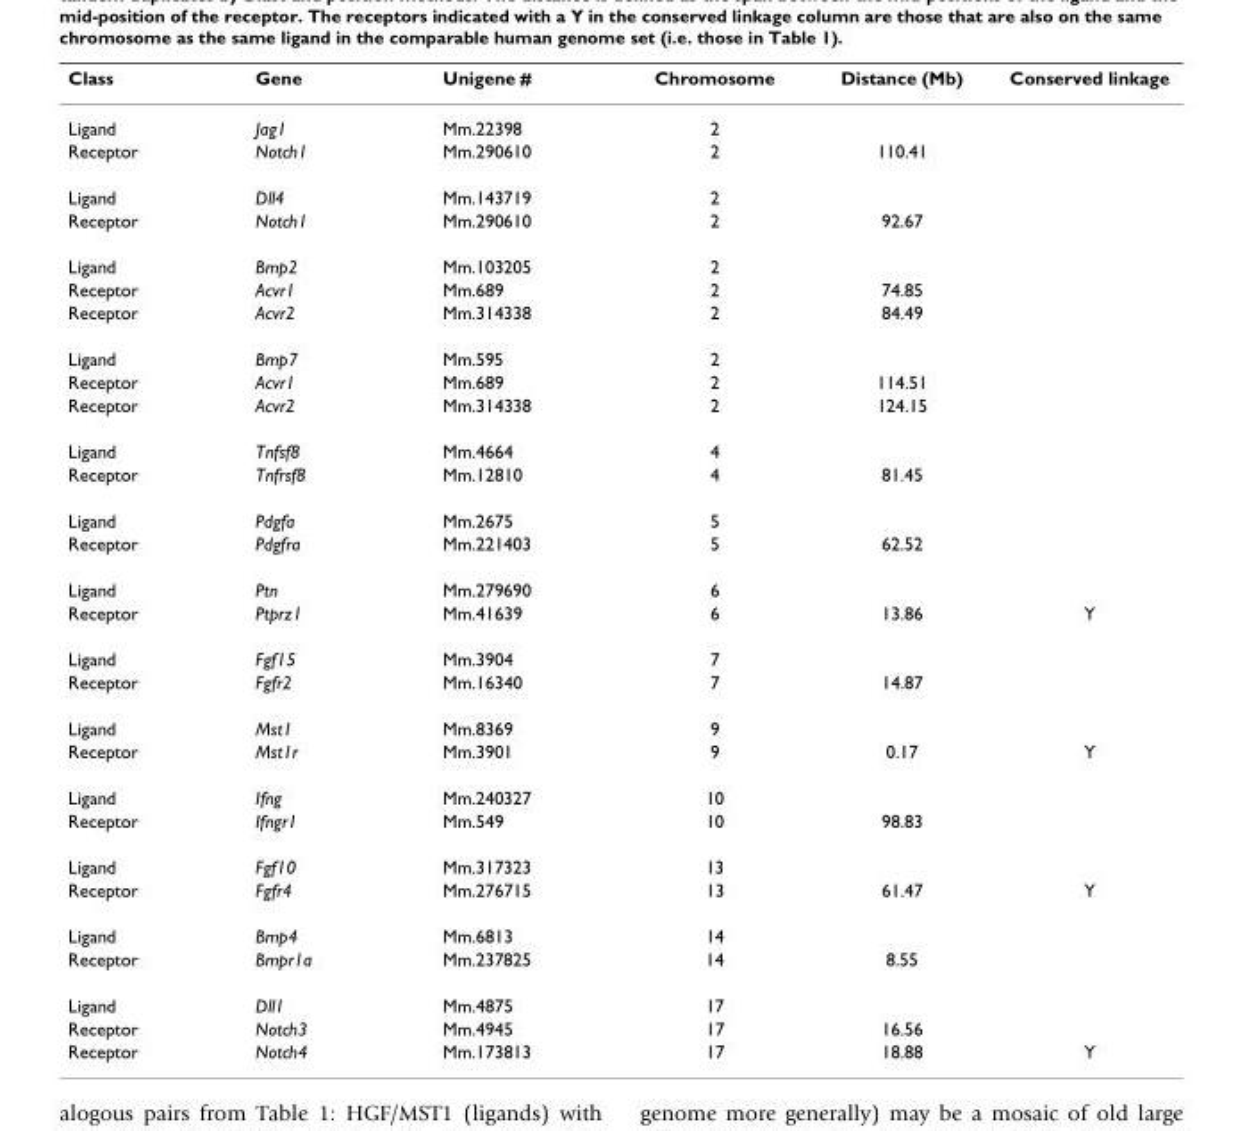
<table><thead><tr><td>Class</td><td>Gene</td><td>Unigene #</td><td>Chromosome</td><td>Distance (Mb)</td><td>Conserved linkage</td></tr></thead><tbody><tr><td>Ligand</td><td>Jag1</td><td>Mm.22398</td><td>2</td><td></td><td></td></tr><tr><td>Receptor</td><td>Notch1</td><td>Mm.290610</td><td>2</td><td>110.41</td><td></td></tr><tr><td>Ligand</td><td>Dll4</td><td>Mm.143719</td><td>2</td><td></td><td></td></tr><tr><td>Receptor</td><td>Notch1</td><td>Mm.290610</td><td>2</td><td>92.67</td><td></td></tr><tr><td>Ligand</td><td>Bmp2</td><td>Mm.103205</td><td>2</td><td></td><td></td></tr><tr><td>Receptor</td><td>Acvr1</td><td>Mm.689</td><td>2</td><td>74.85</td><td></td></tr><tr><td>Receptor</td><td>Acvr2</td><td>Mm.314338</td><td>2</td><td>84.49</td><td></td></tr><tr><td>Ligand</td><td>Bmp7</td><td>Mm.595</td><td>2</td><td></td><td></td></tr><tr><td>Receptor</td><td>Acvr1</td><td>Mm.689</td><td>2</td><td>114.51</td><td></td></tr><tr><td>Receptor</td><td>Acvr2</td><td>Mm.314338</td><td>2</td><td>124.15</td><td></td></tr><tr><td>Ligand</td><td>Tnfsf8</td><td>Mm.4664</td><td>4</td><td></td><td></td></tr><tr><td>Receptor</td><td>Tnfrsf8</td><td>Mm.12810</td><td>4</td><td>81.45</td><td></td></tr><tr><td>Ligand</td><td>Pdgfa</td><td>Mm.2675</td><td>5</td><td></td><td></td></tr><tr><td>Receptor</td><td>Pdgfra</td><td>Mm.221403</td><td>5</td><td>62.52</td><td></td></tr><tr><td>Ligand</td><td>Ptn</td><td>Mm.279690</td><td>6</td><td></td><td></td></tr><tr><td>Receptor</td><td>Ptprz1</td><td>Mm.41639</td><td>6</td><td>13.86</td><td>Y</td></tr><tr><td>Ligand</td><td>Fgf15</td><td>Mm.3904</td><td>7</td><td></td><td></td></tr><tr><td>Receptor</td><td>Fgfr2</td><td>Mm.16340</td><td>7</td><td>14.87</td><td></td></tr><tr><td>Ligand</td><td>Mst1</td><td>Mm.8369</td><td>9</td><td></td><td></td></tr><tr><td>Receptor</td><td>Mst1r</td><td>Mm.3901</td><td>9</td><td>0.17</td><td>Y</td></tr><tr><td>Ligand</td><td>Ifng</td><td>Mm.240327</td><td>10</td><td></td><td></td></tr><tr><td>Receptor</td><td>Ifngr1</td><td>Mm.549</td><td>10</td><td>98.83</td><td></td></tr><tr><td>Ligand</td><td>Fgf10</td><td>Mm.317323</td><td>13</td><td></td><td></td></tr><tr><td>Receptor</td><td>Fgfr4</td><td>Mm.276715</td><td>13</td><td>61.47</td><td>Y</td></tr><tr><td>Ligand</td><td>Bmp4</td><td>Mm.6813</td><td>14</td><td></td><td></td></tr><tr><td>Receptor</td><td>Bmpr1a</td><td>Mm.237825</td><td>14</td><td>8.55</td><td></td></tr><tr><td>Ligand</td><td>Dll1</td><td>Mm.4875</td><td>17</td><td></td><td></td></tr><tr><td>Receptor</td><td>Notch3</td><td>Mm.4945</td><td>17</td><td>16.56</td><td></td></tr><tr><td>Receptor</td><td>Notch4</td><td>Mm.173813</td><td>17</td><td>18.88</td><td>Y</td></tr></tbody></table>